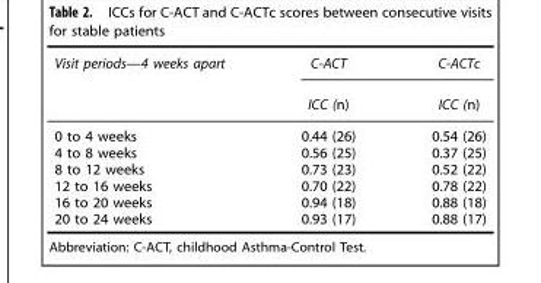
<table><thead><tr><td rowspan="2">Visit periods—4 weeks apart</td><td rowspan="2">C-ACT ICC (n)</td><td rowspan="2">C-ACTc ICC (n)</td></tr><tr></tr></thead><tbody><tr><td>0 to 4 weeks</td><td>0.44 (26)</td><td>0.54 (26)</td></tr><tr><td>4 to 8 weeks</td><td>0.56 (25)</td><td>0.37 (25)</td></tr><tr><td>8 to 12 weeks</td><td>0.73 (23)</td><td>0.52 (22)</td></tr><tr><td>12 to 16 weeks</td><td>0.70 (22)</td><td>0.78 (22)</td></tr><tr><td>16 to 20 weeks</td><td>0.94 (18)</td><td>0.88 (18)</td></tr><tr><td>20 to 24 weeks</td><td>0.93 (17)</td><td>0.88 (17)</td></tr></tbody></table>